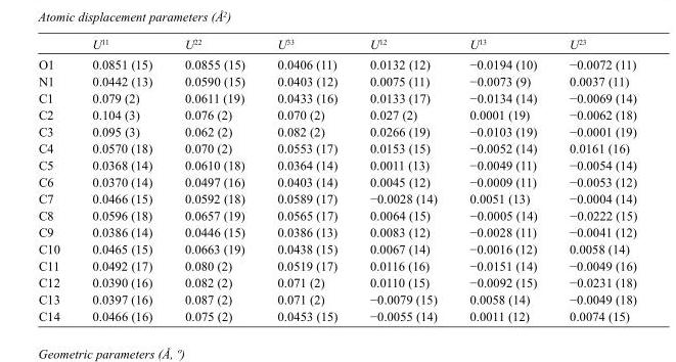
<table><thead><tr><td></td><td>U<sup>11</sup></td><td>U<sup>22</sup></td><td>U<sup>33</sup></td><td>U<sup>12</sup></td><td>U<sup>13</sup></td><td>U<sup>23</sup></td></tr></thead><tbody><tr><td>O1</td><td>0.0851 (15)</td><td>0.0855 (15)</td><td>0.0406 (11)</td><td>0.0132 (12)</td><td>−0.0194 (10)</td><td>−0.0072 (11)</td></tr><tr><td>N1</td><td>0.0442 (13)</td><td>0.0590 (15)</td><td>0.0403 (12)</td><td>0.0075 (11)</td><td>−0.0073 (9)</td><td>0.0037 (11)</td></tr><tr><td>C1</td><td>0.079 (2)</td><td>0.0611 (19)</td><td>0.0433 (16)</td><td>0.0133 (17)</td><td>−0.0134 (14)</td><td>−0.0069 (14)</td></tr><tr><td>C2</td><td>0.104 (3)</td><td>0.076 (2)</td><td>0.070 (2)</td><td>0.027 (2)</td><td>0.0001 (19)</td><td>−0.0062 (18)</td></tr><tr><td>C3</td><td>0.095 (3)</td><td>0.062 (2)</td><td>0.082 (2)</td><td>0.0266 (19)</td><td>−0.0103 (19)</td><td>−0.0001 (19)</td></tr><tr><td>C4</td><td>0.0570 (18)</td><td>0.070 (2)</td><td>0.0553 (17)</td><td>0.0153 (15)</td><td>−0.0052 (14)</td><td>0.0161 (16)</td></tr><tr><td>C5</td><td>0.0368 (14)</td><td>0.0610 (18)</td><td>0.0364 (14)</td><td>0.0011 (13)</td><td>−0.0049 (11)</td><td>−0.0054 (14)</td></tr><tr><td>C6</td><td>0.0370 (14)</td><td>0.0497 (16)</td><td>0.0403 (14)</td><td>0.0045 (12)</td><td>−0.0009 (11)</td><td>−0.0053 (12)</td></tr><tr><td>C7</td><td>0.0466 (15)</td><td>0.0592 (18)</td><td>0.0589 (17)</td><td>−0.0028 (14)</td><td>0.0051 (13)</td><td>−0.0004 (14)</td></tr><tr><td>C8</td><td>0.0596 (18)</td><td>0.0657 (19)</td><td>0.0565 (17)</td><td>0.0064 (15)</td><td>−0.0005 (14)</td><td>−0.0222 (15)</td></tr><tr><td>C9</td><td>0.0386 (14)</td><td>0.0446 (15)</td><td>0.0386 (13)</td><td>0.0083 (12)</td><td>−0.0028 (11)</td><td>−0.0041 (12)</td></tr><tr><td>C10</td><td>0.0465 (15)</td><td>0.0663 (19)</td><td>0.0438 (15)</td><td>0.0067 (14)</td><td>−0.0016 (12)</td><td>0.0058 (14)</td></tr><tr><td>C11</td><td>0.0492 (17)</td><td>0.080 (2)</td><td>0.0519 (17)</td><td>0.0116 (16)</td><td>−0.0151 (14)</td><td>−0.0049 (16)</td></tr><tr><td>C12</td><td>0.0390 (16)</td><td>0.082 (2)</td><td>0.071 (2)</td><td>0.0110 (15)</td><td>−0.0092 (15)</td><td>−0.0231 (18)</td></tr><tr><td>C13</td><td>0.0397 (16)</td><td>0.087 (2)</td><td>0.071 (2)</td><td>−0.0079 (15)</td><td>0.0058 (14)</td><td>−0.0049 (18)</td></tr><tr><td>C14</td><td>0.0466 (16)</td><td>0.075 (2)</td><td>0.0453 (15)</td><td>−0.0055 (14)</td><td>0.0011 (12)</td><td>0.0074 (15)</td></tr></tbody></table>